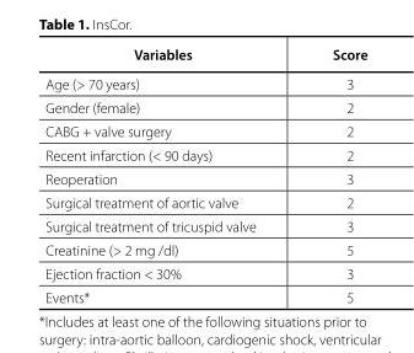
<table><thead><tr><td>Variables</td><td>Score</td></tr></thead><tbody><tr><td>Age (&gt; 70 years)</td><td>3</td></tr><tr><td>Gender (female)</td><td>2</td></tr><tr><td>CABG + valve surgery</td><td>2</td></tr><tr><td>Recent infarction (&lt; 90 days)</td><td>2</td></tr><tr><td>Reoperation</td><td>3</td></tr><tr><td>Surgical treatment of aortic valve</td><td>2</td></tr><tr><td>Surgical treatment of tricuspid valve</td><td>3</td></tr><tr><td>Creatinine (&gt; 2 mg /dl)</td><td>5</td></tr><tr><td>Ejection fraction &lt; 30%</td><td>3</td></tr><tr><td>Events*</td><td>5</td></tr></tbody></table>